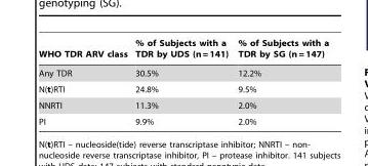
<table><thead><tr><td>WHO TDR ARV class</td><td>% of Subjects with a TDR by UDS (n = 141)</td><td>% of Subjects with a TDR by SG (n = 147)</td></tr></thead><tbody><tr><td>Any TDR</td><td>30.5%</td><td>12.2%</td></tr><tr><td>N(t)RTI</td><td>24.8%</td><td>9.5%</td></tr><tr><td>NNRTI</td><td>11.3%</td><td>2.0%</td></tr><tr><td>PI</td><td>9.9%</td><td>2.0%</td></tr></tbody></table>